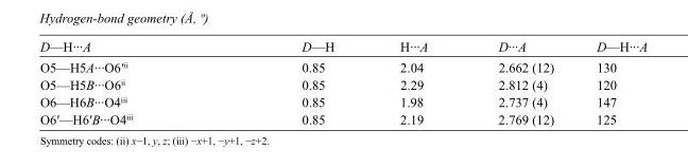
<table><tbody><tr><td>D—H···A</td><td>D—H</td><td>H···A</td><td>D···A</td><td>D—H···A</td></tr><tr><td>O5—H5A···O6′<sup>ii</sup></td><td>0.85</td><td>2.04</td><td>2.662 (12)</td><td>130</td></tr><tr><td>O5—H5B···O6<sup>ii</sup></td><td>0.85</td><td>2.29</td><td>2.812 (4)</td><td>120</td></tr><tr><td>O6—H6B···O4<sup>iii</sup></td><td>0.85</td><td>1.98</td><td>2.737 (4)</td><td>147</td></tr><tr><td>O6′—H6′B···O4<sup>iii</sup></td><td>0.85</td><td>2.19</td><td>2.769 (12)</td><td>125</td></tr></tbody></table>